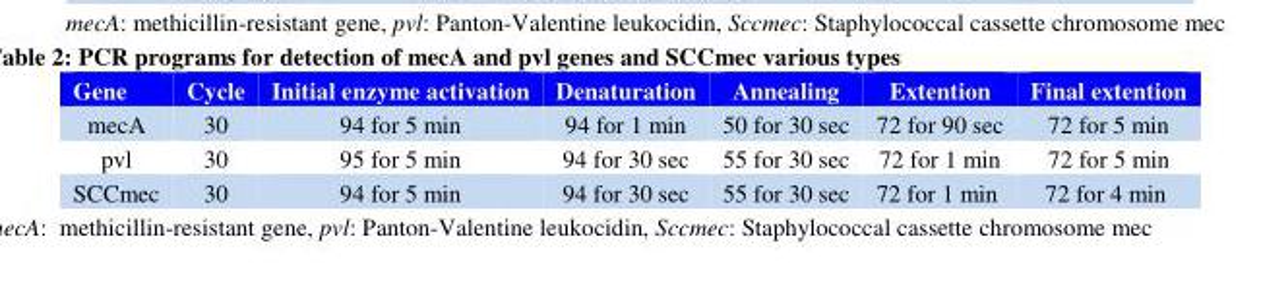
<table><thead><tr><td>Final extention</td><td>Extention</td><td>Annealing</td><td>Denaturation</td><td>Initial enzyme activation</td><td>Cycle</td><td>Gene</td></tr></thead><tbody><tr><td>72 for 5 min</td><td>72 for 90 sec</td><td>50 for 30 sec</td><td>94 for 1 min</td><td>94 for 5 min</td><td>30</td><td>mecA</td></tr><tr><td>72 for 5 min</td><td>72 for 1 min</td><td>55 for 30 sec</td><td>94 for 30 sec</td><td>95 for 5 min</td><td>30</td><td>pvl</td></tr><tr><td>72 for 4 min</td><td>72 for 1 min</td><td>55 for 30 sec</td><td>94 for 30 sec</td><td>94 for 5 min</td><td>30</td><td>SCCmec</td></tr></tbody></table>